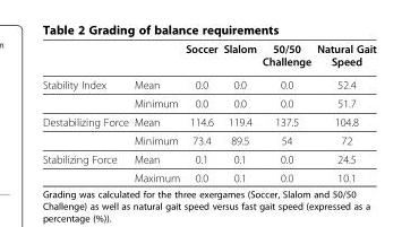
<table><thead><tr><td></td><td></td><td>Soccer</td><td>Slalom</td><td>50/50 Challenge</td><td>Natural Gait Speed</td></tr></thead><tbody><tr><td rowspan="2">Stability Index</td><td>Mean</td><td>0.0</td><td>0.0</td><td>0.0</td><td>52.4</td></tr><tr><td>Minimum</td><td>0.0</td><td>0.0</td><td>0.0</td><td>51.7</td></tr><tr><td rowspan="2">Destabilizing Force</td><td>Mean</td><td>114.6</td><td>119.4</td><td>137.5</td><td>104.8</td></tr><tr><td>Minimum</td><td>73.4</td><td>89.5</td><td>54</td><td>72</td></tr><tr><td rowspan="2">Stabilizing Force</td><td>Mean</td><td>0.1</td><td>0.1</td><td>0.0</td><td>24.5</td></tr><tr><td>Maximum</td><td>0.0</td><td>0.1</td><td>0.0</td><td>10.1</td></tr></tbody></table>